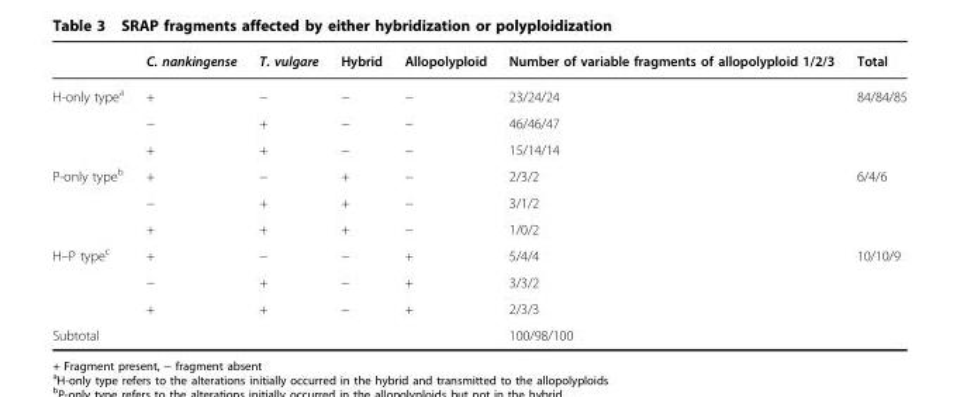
<table><thead><tr><td></td><td>C. nankingense</td><td>T. vulgare</td><td>Hybrid</td><td>Allopolyploid</td><td>Number of variable fragments of allopolyploid 1/2/3</td><td>Total</td></tr></thead><tbody><tr><td rowspan="3">H-only type<sup>a</sup></td><td>+</td><td>−</td><td>−</td><td>−</td><td>23/24/24</td><td rowspan="3">84/84/85</td></tr><tr><td>−</td><td>+</td><td>−</td><td>−</td><td>46/46/47</td></tr><tr><td>+</td><td>+</td><td>−</td><td>−</td><td>15/14/14</td></tr><tr><td rowspan="3">P-only type<sup>b</sup></td><td>+</td><td>−</td><td>+</td><td>−</td><td>2/3/2</td><td rowspan="3">6/4/6</td></tr><tr><td>−</td><td>+</td><td>+</td><td>−</td><td>3/1/2</td></tr><tr><td>+</td><td>+</td><td>+</td><td>−</td><td>1/0/2</td></tr><tr><td rowspan="3">H–P type<sup>c</sup></td><td>+</td><td>−</td><td>−</td><td>+</td><td>5/4/4</td><td rowspan="3">10/10/9</td></tr><tr><td>−</td><td>+</td><td>−</td><td>+</td><td>3/3/2</td></tr><tr><td>+</td><td>+</td><td>−</td><td>+</td><td>2/3/3</td></tr><tr><td>Subtotal</td><td></td><td></td><td></td><td></td><td>100/98/100</td><td></td></tr></tbody></table>